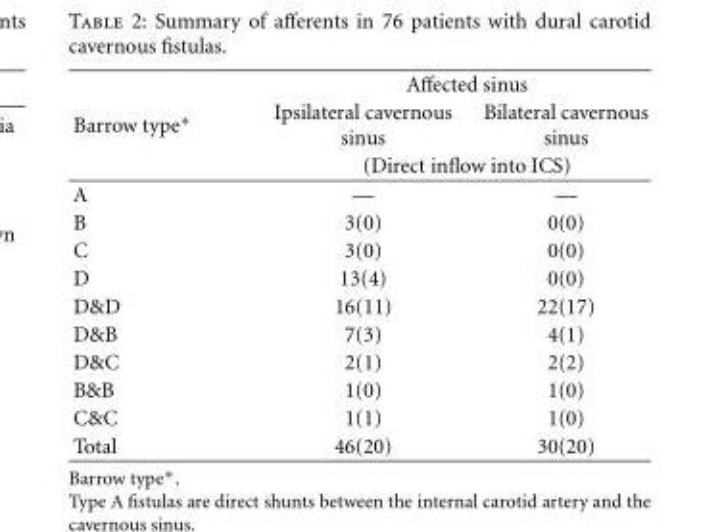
<table><thead><tr><td rowspan="3">Barrow type∗</td><td colspan="2">Affected sinus</td></tr><tr><td>Ipsilateral cavernous sinus</td><td>Bilateral cavernous sinus</td></tr><tr><td colspan="2">(Direct inflow into ICS)</td></tr></thead><tbody><tr><td>A</td><td>—</td><td>—</td></tr><tr><td>B</td><td>3(0)</td><td>0(0)</td></tr><tr><td>C</td><td>3(0)</td><td>0(0)</td></tr><tr><td>D</td><td>13(4)</td><td>0(0)</td></tr><tr><td>D&amp;D</td><td>16(11)</td><td>22(17)</td></tr><tr><td>D&amp;B</td><td>7(3)</td><td>4(1)</td></tr><tr><td>D&amp;C</td><td>2(1)</td><td>2(2)</td></tr><tr><td>B&amp;B</td><td>1(0)</td><td>1(0)</td></tr><tr><td>C&amp;C</td><td>1(1)</td><td>1(0)</td></tr><tr><td>Total</td><td>46(20)</td><td>30(20)</td></tr></tbody></table>